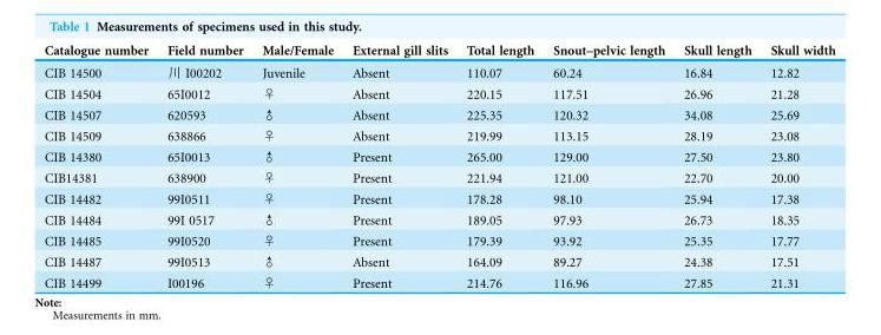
<table><thead><tr><td>Catalogue number</td><td>Field number</td><td>Male/Female</td><td>External gill slits</td><td>Total length</td><td>Snout–pelvic length</td><td>Skull length</td><td>Skull width</td></tr></thead><tbody><tr><td>CIB 14500</td><td>川 I00202</td><td>Juvenile</td><td>Absent</td><td>110.07</td><td>60.24</td><td>16.84</td><td>12.82</td></tr><tr><td>CIB 14504</td><td>65I0012</td><td>♀</td><td>Absent</td><td>220.15</td><td>117.51</td><td>26.96</td><td>21.28</td></tr><tr><td>CIB 14507</td><td>620593</td><td>♂</td><td>Absent</td><td>225.35</td><td>120.32</td><td>34.08</td><td>25.69</td></tr><tr><td>CIB 14509</td><td>638866</td><td>♀</td><td>Absent</td><td>219.99</td><td>113.15</td><td>28.19</td><td>23.08</td></tr><tr><td>CIB 14380</td><td>65I0013</td><td>♂</td><td>Present</td><td>265.00</td><td>129.00</td><td>27.50</td><td>23.80</td></tr><tr><td>CIB14381</td><td>638900</td><td>♀</td><td>Present</td><td>221.94</td><td>121.00</td><td>22.70</td><td>20.00</td></tr><tr><td>CIB 14482</td><td>99I0511</td><td>♀</td><td>Present</td><td>178.28</td><td>98.10</td><td>25.94</td><td>17.38</td></tr><tr><td>CIB 14484</td><td>99I 0517</td><td>♂</td><td>Present</td><td>189.05</td><td>97.93</td><td>26.73</td><td>18.35</td></tr><tr><td>CIB 14485</td><td>99I0520</td><td>♀</td><td>Present</td><td>179.39</td><td>93.92</td><td>25.35</td><td>17.77</td></tr><tr><td>CIB 14487</td><td>99I0513</td><td>♂</td><td>Absent</td><td>164.09</td><td>89.27</td><td>24.38</td><td>17.51</td></tr><tr><td>CIB 14499</td><td>I00196</td><td>♀</td><td>Present</td><td>214.76</td><td>116.96</td><td>27.85</td><td>21.31</td></tr></tbody></table>